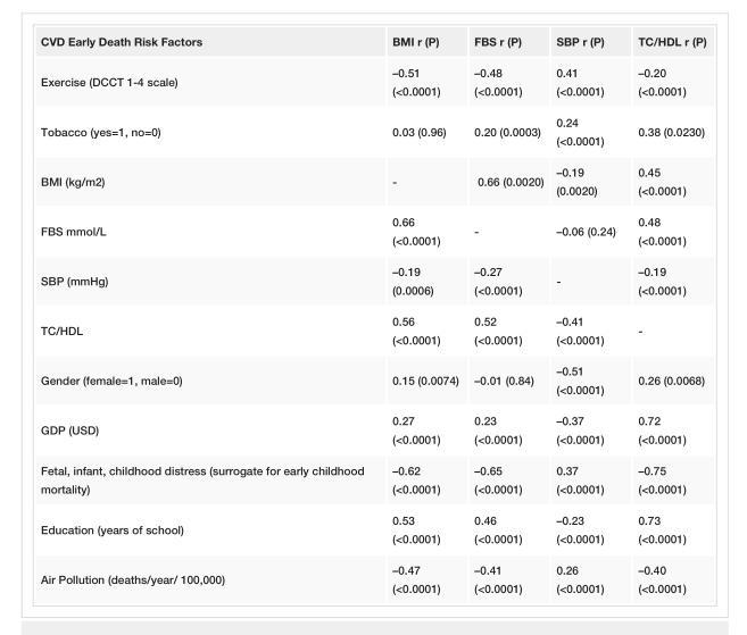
<table><tbody><tr><td>CVD Early Death Risk Factors</td><td>BMI r (P)</td><td>FBS r (P)</td><td>SBP r (P)</td><td>TC/HDL r (P)</td></tr><tr><td>Exercise (DCCT 1-4 scale)</td><td>–0.51 (&lt;0.0001)</td><td>–0.48 (&lt;0.0001)</td><td>0.41 (&lt;0.0001)</td><td>–0.20 (&lt;0.0001)</td></tr><tr><td>Tobacco (yes=1, no=0)</td><td>0.03 (0.96)</td><td>0.20 (0.0003)</td><td>0.24 (&lt;0.0001)</td><td>0.38 (0.0230)</td></tr><tr><td>BMI (kg/m2)</td><td>-</td><td>0.66 (0.0020)</td><td>–0.19 (0.0020)</td><td>0.45 (&lt;0.0001)</td></tr><tr><td>FBS mmol/L</td><td>0.66 (&lt;0.0001)</td><td>-</td><td>–0.06 (0.24)</td><td>0.48 (&lt;0.0001)</td></tr><tr><td>SBP (mmHg)</td><td>–0.19 (0.0006)</td><td>–0.27 (&lt;0.0001)</td><td>-</td><td>–0.19 (&lt;0.0001)</td></tr><tr><td>TC/HDL</td><td>0.56 (&lt;0.0001)</td><td>0.52 (&lt;0.0001)</td><td>–0.41 (&lt;0.0001)</td><td>-</td></tr><tr><td>Gender (female=1, male=0)</td><td>0.15 (0.0074)</td><td>–0.01 (0.84)</td><td>–0.51 (&lt;0.0001)</td><td>0.26 (0.0068)</td></tr><tr><td>GDP (USD)</td><td>0.27 (&lt;0.0001)</td><td>0.23 (&lt;0.0001)</td><td>–0.37 (&lt;0.0001)</td><td>0.72 (&lt;0.0001)</td></tr><tr><td>Fetal, infant, childhood distress (surrogate for early childhood mortality)</td><td>–0.62 (&lt;0.0001)</td><td>–0.65 (&lt;0.0001)</td><td>0.37 (&lt;0.0001)</td><td>–0.75 (&lt;0.0001)</td></tr><tr><td>Education (years of school)</td><td>0.53 (&lt;0.0001)</td><td>0.46 (&lt;0.0001)</td><td>–0.23 (&lt;0.0001)</td><td>0.73 (&lt;0.0001)</td></tr><tr><td>Air Pollution (deaths/year/ 100,000)</td><td>–0.47 (&lt;0.0001)</td><td>–0.41 (&lt;0.0001)</td><td>0.26 (&lt;0.0001)</td><td>–0.40 (&lt;0.0001)</td></tr></tbody></table>